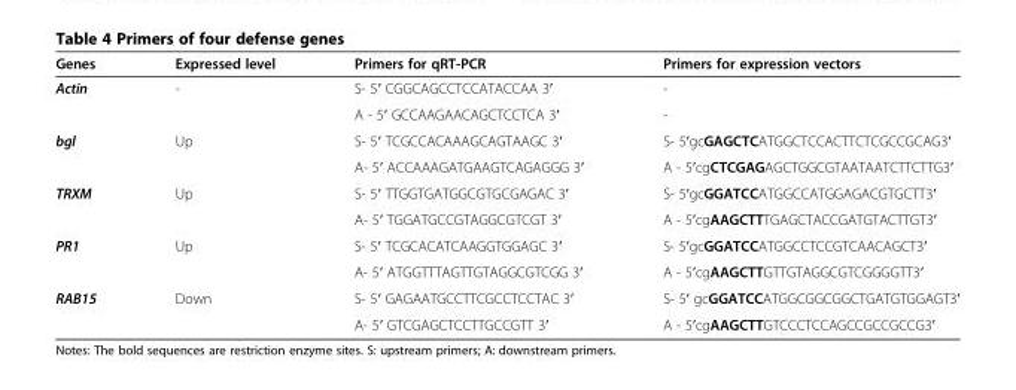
<table><thead><tr><td>Genes</td><td>Expressed level</td><td>Primers for qRT-PCR</td><td>Primers for expression vectors</td></tr></thead><tbody><tr><td rowspan="2">Actin</td><td rowspan="2">-</td><td>S- 5′ CGGCAGCCTCCATACCAA 3′</td><td>-</td></tr><tr><td>A - 5′ GCCAAGAACAGCTCCTCA 3′</td><td>-</td></tr><tr><td rowspan="2">bgl</td><td rowspan="2">Up</td><td>S- 5′ TCGCCACAAAGCAGTAAGC 3′</td><td>S- 5′gcGAGCTCATGGCTCCACTTCTCGCCGCAG3′</td></tr><tr><td>A- 5′ ACCAAAGATGAAGTCAGAGGG 3′</td><td>A - 5′cgCTCGAGAGCTGGCGTAATAATCTTCTTG3′</td></tr><tr><td rowspan="2">TRXM</td><td rowspan="2">Up</td><td>S- 5′ TTGGTGATGGCGTGCGAGAC 3′</td><td>S- 5′gcGGATCCATGGCCATGGAGACGTGCTT3′</td></tr><tr><td>A- 5′ TGGATGCCGTAGGCGTCGT 3′</td><td>A - 5′cgAAGCTTTGAGCTACCGATGTACTTGT3′</td></tr><tr><td rowspan="2">PR1</td><td rowspan="2">Up</td><td>S- 5′ TCGCACATCAAGGTGGAGC 3′</td><td>S- 5′gcGGATCCATGGCCTCCGTCAACAGCT3′</td></tr><tr><td>A- 5′ ATGGTTTAGTTGTAGGCGTCGG 3′</td><td>A - 5′cgAAGCTTGTTGTAGGCGTCGGGGTT3′</td></tr><tr><td rowspan="2">RAB15</td><td rowspan="2">Down</td><td>S- 5′ GAGAATGCCTTCGCCTCCTAC 3′</td><td>S- 5′ gcGGATCCATGGCGGCGGCTGATGTGGAGT3′</td></tr><tr><td>A- 5′ GTCGAGCTCCTTGCCGTT 3′</td><td>A - 5′cgAAGCTTGTCCCTCCAGCCGCCGCCG3′</td></tr></tbody></table>